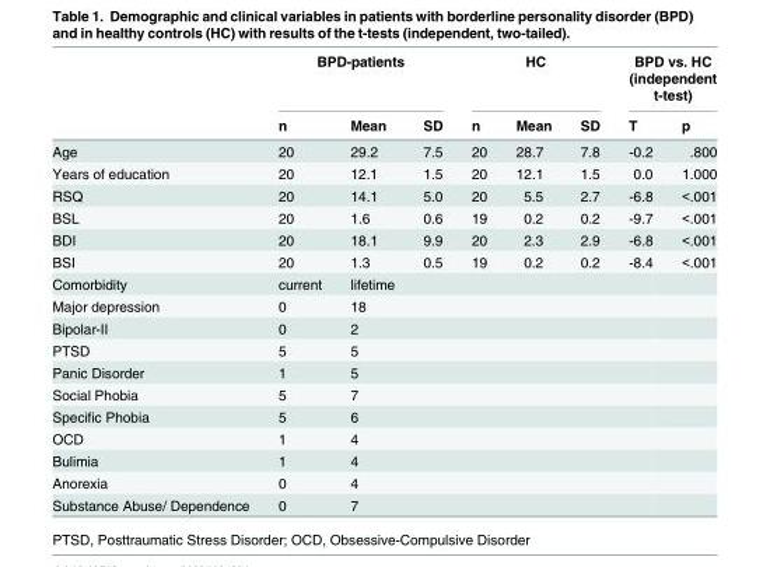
<table><thead><tr><td rowspan="2"></td><td colspan="3">BPD-patients</td><td colspan="3">HC</td><td colspan="2">BPD vs. HC (independent t-test)</td></tr><tr><td>n</td><td>Mean</td><td>SD</td><td>n</td><td>Mean</td><td>SD</td><td>T</td><td>p</td></tr></thead><tbody><tr><td>Age</td><td>20</td><td>29.2</td><td>7.5</td><td>20</td><td>28.7</td><td>7.8</td><td>-0.2</td><td>.800</td></tr><tr><td>Years of education</td><td>20</td><td>12.1</td><td>1.5</td><td>20</td><td>12.1</td><td>1.5</td><td>0.0</td><td>1.000</td></tr><tr><td>RSQ</td><td>20</td><td>14.1</td><td>5.0</td><td>20</td><td>5.5</td><td>2.7</td><td>-6.8</td><td>&lt;.001</td></tr><tr><td>BSL</td><td>20</td><td>1.6</td><td>0.6</td><td>19</td><td>0.2</td><td>0.2</td><td>-9.7</td><td>&lt;.001</td></tr><tr><td>BDI</td><td>20</td><td>18.1</td><td>9.9</td><td>20</td><td>2.3</td><td>2.9</td><td>-6.8</td><td>&lt;.001</td></tr><tr><td>BSI</td><td>20</td><td>1.3</td><td>0.5</td><td>19</td><td>0.2</td><td>0.2</td><td>-8.4</td><td>&lt;.001</td></tr><tr><td>Comorbidity</td><td>current</td><td>lifetime</td><td></td><td></td><td></td><td></td><td></td><td></td></tr><tr><td>Major depression</td><td>0</td><td>18</td><td></td><td></td><td></td><td></td><td></td><td></td></tr><tr><td>Bipolar-II</td><td>0</td><td>2</td><td></td><td></td><td></td><td></td><td></td><td></td></tr><tr><td>PTSD</td><td>5</td><td>5</td><td></td><td></td><td></td><td></td><td></td><td></td></tr><tr><td>Panic Disorder</td><td>1</td><td>5</td><td></td><td></td><td></td><td></td><td></td><td></td></tr><tr><td>Social Phobia</td><td>5</td><td>7</td><td></td><td></td><td></td><td></td><td></td><td></td></tr><tr><td>Specific Phobia</td><td>5</td><td>6</td><td></td><td></td><td></td><td></td><td></td><td></td></tr><tr><td>OCD</td><td>1</td><td>4</td><td></td><td></td><td></td><td></td><td></td><td></td></tr><tr><td>Bulimia</td><td>1</td><td>4</td><td></td><td></td><td></td><td></td><td></td><td></td></tr><tr><td>Anorexia</td><td>0</td><td>4</td><td></td><td></td><td></td><td></td><td></td><td></td></tr><tr><td>Substance Abuse/ Dependence</td><td>0</td><td>7</td><td></td><td></td><td></td><td></td><td></td><td></td></tr></tbody></table>